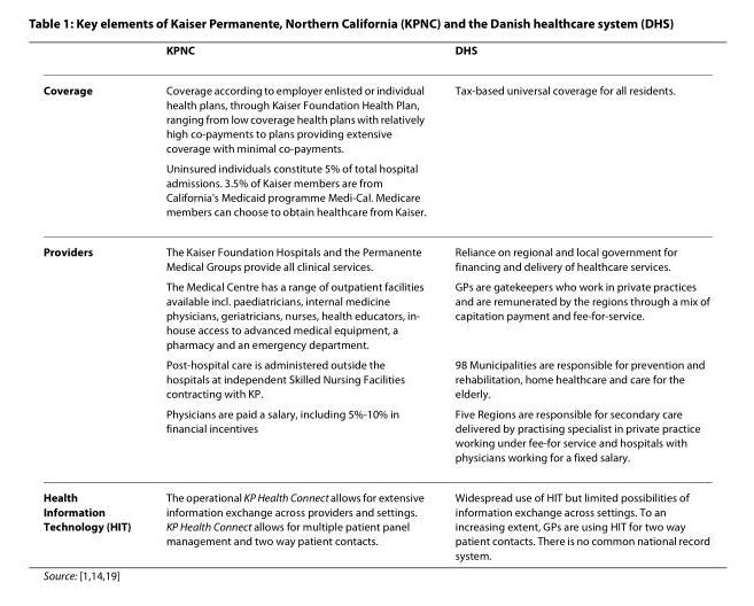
<table><thead><tr><td></td><td>KPNC</td><td>DHS</td></tr></thead><tbody><tr><td rowspan="2">Coverage</td><td>Coverage according to employer enlisted or individual health plans, through Kaiser Foundation Health Plan, ranging from low coverage health plans with relatively high co-payments to plans providing extensive coverage with minimal co-payments.</td><td>Tax-based universal coverage for all residents.</td></tr><tr><td>Uninsured individuals constitute 5% of total hospital admissions. 3.5% of Kaiser members are from California&#x27;s Medicaid programme Medi-Cal. Medicare members can choose to obtain healthcare from Kaiser.</td><td></td></tr><tr><td rowspan="4">Providers</td><td>The Kaiser Foundation Hospitals and the Permanente Medical Groups provide all clinical services.</td><td>Reliance on regional and local government for financing and delivery of healthcare services.</td></tr><tr><td>The Medical Centre has a range of outpatient facilities available incl. paediatricians, internal medicine physicians, geriatricians, nurses, health educators, in- house access to advanced medical equipment, a pharmacy and an emergency department.</td><td>GPs are gatekeepers who work in private practices and are remunerated by the regions through a mix of capitation payment and fee-for-service.</td></tr><tr><td>Post-hospital care is administered outside the hospitals at independent Skilled Nursing Facilities contracting with KP.</td><td>98 Municipalities are responsible for prevention and rehabilitation, home healthcare and care for the elderly.</td></tr><tr><td>Physicians are paid a salary, including 5%-10% in financial incentives</td><td>Five Regions are responsible for secondary care delivered by practising specialist in private practice working under fee-for service and hospitals with physicians working for a fixed salary.</td></tr><tr><td>Health Information Technology (HIT)</td><td>The operational KP Health Connect allows for extensive information exchange across providers and settings. KP Health Connect allows for multiple patient panel management and two way patient contacts.</td><td>Widespread use of HIT but limited possibilities of information exchange across settings. To an increasing extent, GPs are using HIT for two way patient contacts. There is no common national record system.</td></tr></tbody></table>